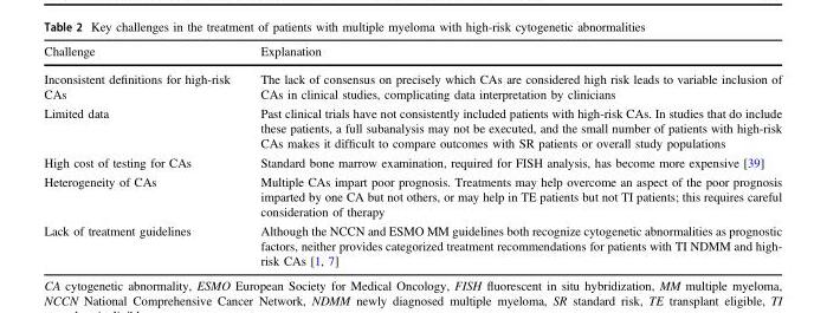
<table><thead><tr><td>Challenge</td><td>Explanation</td></tr></thead><tbody><tr><td>Inconsistent definitions for high-risk CAs</td><td>The lack of consensus on precisely which CAs are considered high risk leads to variable inclusion of CAs in clinical studies, complicating data interpretation by clinicians</td></tr><tr><td>Limited data</td><td>Past clinical trials have not consistently included patients with high-risk CAs. In studies that do include these patients, a full subanalysis may not be executed, and the small number of patients with high-risk CAs makes it difficult to compare outcomes with SR patients or overall study populations</td></tr><tr><td>High cost of testing for CAs</td><td>Standard bone marrow examination, required for FISH analysis, has become more expensive [39]</td></tr><tr><td>Heterogeneity of CAs</td><td>Multiple CAs impart poor prognosis. Treatments may help overcome an aspect of the poor prognosis imparted by one CA but not others, or may help in TE patients but not TI patients; this requires careful consideration of therapy</td></tr><tr><td>Lack of treatment guidelines</td><td>Although the NCCN and ESMO MM guidelines both recognize cytogenetic abnormalities as prognostic factors, neither provides categorized treatment recommendations for patients with TI NDMM and high- risk CAs [1, 7]</td></tr></tbody></table>